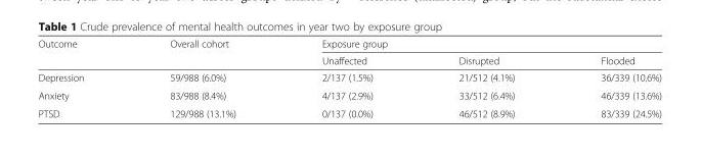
<table><thead><tr><td rowspan="2">Outcome</td><td rowspan="2">Overall cohort</td><td colspan="3">Exposure group</td></tr><tr><td>Unaffected</td><td>Disrupted</td><td>Flooded</td></tr></thead><tbody><tr><td>Depression</td><td>59/988 (6.0%)</td><td>2/137 (1.5%)</td><td>21/512 (4.1%)</td><td>36/339 (10.6%)</td></tr><tr><td>Anxiety</td><td>83/988 (8.4%)</td><td>4/137 (2.9%)</td><td>33/512 (6.4%)</td><td>46/339 (13.6%)</td></tr><tr><td>PTSD</td><td>129/988 (13.1%)</td><td>0/137 (0.0%)</td><td>46/512 (8.9%)</td><td>83/339 (24.5%)</td></tr></tbody></table>